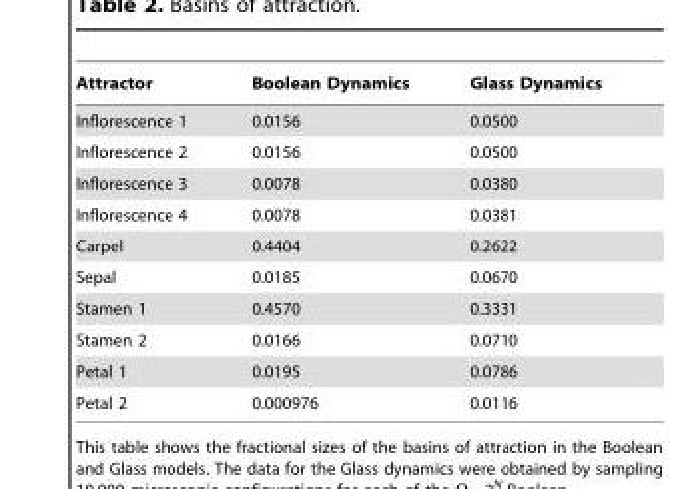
<table><thead><tr><td>Attractor</td><td>Boolean Dynamics</td><td>Glass Dynamics</td></tr></thead><tbody><tr><td>Inflorescence 1</td><td>0.0156</td><td>0.0500</td></tr><tr><td>Inflorescence 2</td><td>0.0156</td><td>0.0500</td></tr><tr><td>Inflorescence 3</td><td>0.0078</td><td>0.0380</td></tr><tr><td>Inflorescence 4</td><td>0.0078</td><td>0.0381</td></tr><tr><td>Carpel</td><td>0.4404</td><td>0.2622</td></tr><tr><td>Sepal</td><td>0.0185</td><td>0.0670</td></tr><tr><td>Stamen 1</td><td>0.4570</td><td>0.3331</td></tr><tr><td>Stamen 2</td><td>0.0166</td><td>0.0710</td></tr><tr><td>Petal 1</td><td>0.0195</td><td>0.0786</td></tr><tr><td>Petal 2</td><td>0.000976</td><td>0.0116</td></tr></tbody></table>